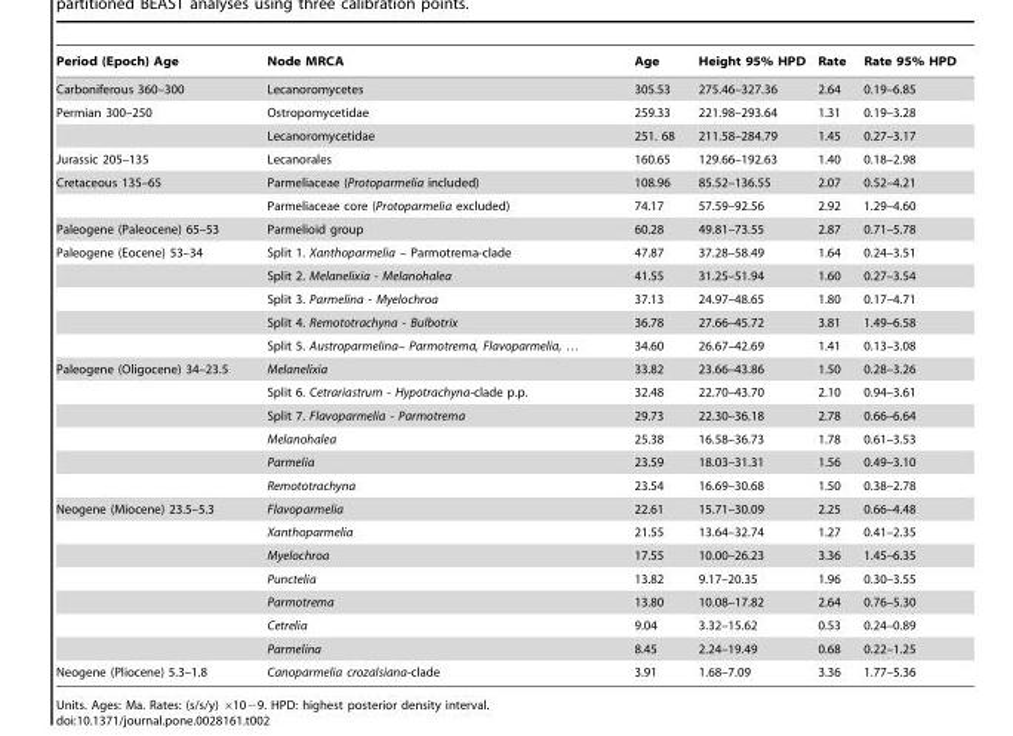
<table><thead><tr><td>Period (Epoch) Age</td><td>Node MRCA</td><td>Age</td><td>Height 95% HPD</td><td>Rate</td><td>Rate 95% HPD</td></tr></thead><tbody><tr><td>Carboniferous 360–300</td><td>Lecanoromycetes</td><td>305.53</td><td>275.46–327.36</td><td>2.64</td><td>0.19–6.85</td></tr><tr><td rowspan="2">Permian 300–250</td><td>Ostropomycetidae</td><td>259.33</td><td>221.98–293.64</td><td>1.31</td><td>0.19–3.28</td></tr><tr><td>Lecanoromycetidae</td><td>251. 68</td><td>211.58–284.79</td><td>1.45</td><td>0.27–3.17</td></tr><tr><td>Jurassic 205–135</td><td>Lecanorales</td><td>160.65</td><td>129.66–192.63</td><td>1.40</td><td>0.18–2.98</td></tr><tr><td rowspan="2">Cretaceous 135–65</td><td>Parmeliaceae (Protoparmelia included)</td><td>108.96</td><td>85.52–136.55</td><td>2.07</td><td>0.52–4.21</td></tr><tr><td>Parmeliaceae core (Protoparmelia excluded)</td><td>74.17</td><td>57.59–92.56</td><td>2.92</td><td>1.29–4.60</td></tr><tr><td>Paleogene (Paleocene) 65–53</td><td>Parmelioid group</td><td>60.28</td><td>49.81–73.55</td><td>2.87</td><td>0.71–5.78</td></tr><tr><td rowspan="5">Paleogene (Eocene) 53–34</td><td>Split 1. Xanthoparmelia – Parmotrema-clade</td><td>47.87</td><td>37.28–58.49</td><td>1.64</td><td>0.24–3.51</td></tr><tr><td>Split 2. Melanelixia - Melanohalea</td><td>41.55</td><td>31.25–51.94</td><td>1.60</td><td>0.27–3.54</td></tr><tr><td>Split 3. Parmelina - Myelochroa</td><td>37.13</td><td>24.97–48.65</td><td>1.80</td><td>0.17–4.71</td></tr><tr><td>Split 4. Remototrachyna - Bulbotrix</td><td>36.78</td><td>27.66–45.72</td><td>3.81</td><td>1.49–6.58</td></tr><tr><td>Split 5. Austroparmelina– Parmotrema, Flavoparmelia, …</td><td>34.60</td><td>26.67–42.69</td><td>1.41</td><td>0.13–3.08</td></tr><tr><td rowspan="6">Paleogene (Oligocene) 34–23.5</td><td>Melanelixia</td><td>33.82</td><td>23.66–43.86</td><td>1.50</td><td>0.28–3.26</td></tr><tr><td>Split 6. Cetrariastrum - Hypotrachyna-clade p.p.</td><td>32.48</td><td>22.70–43.70</td><td>2.10</td><td>0.94–3.61</td></tr><tr><td>Split 7. Flavoparmelia - Parmotrema</td><td>29.73</td><td>22.30–36.18</td><td>2.78</td><td>0.66–6.64</td></tr><tr><td>Melanohalea</td><td>25.38</td><td>16.58–36.73</td><td>1.78</td><td>0.61–3.53</td></tr><tr><td>Parmelia</td><td>23.59</td><td>18.03–31.31</td><td>1.56</td><td>0.49–3.10</td></tr><tr><td>Remototrachyna</td><td>23.54</td><td>16.69–30.68</td><td>1.50</td><td>0.38–2.78</td></tr><tr><td rowspan="7">Neogene (Miocene) 23.5–5.3</td><td>Flavoparmelia</td><td>22.61</td><td>15.71–30.09</td><td>2.25</td><td>0.66–4.48</td></tr><tr><td>Xanthoparmelia</td><td>21.55</td><td>13.64–32.74</td><td>1.27</td><td>0.41–2.35</td></tr><tr><td>Myelochroa</td><td>17.55</td><td>10.00–26.23</td><td>3.36</td><td>1.45–6.35</td></tr><tr><td>Punctelia</td><td>13.82</td><td>9.17–20.35</td><td>1.96</td><td>0.30–3.55</td></tr><tr><td>Parmotrema</td><td>13.80</td><td>10.08–17.82</td><td>2.64</td><td>0.76–5.30</td></tr><tr><td>Cetrelia</td><td>9.04</td><td>3.32–15.62</td><td>0.53</td><td>0.24–0.89</td></tr><tr><td>Parmelina</td><td>8.45</td><td>2.24–19.49</td><td>0.68</td><td>0.22–1.25</td></tr><tr><td>Neogene (Pliocene) 5.3–1.8</td><td>Canoparmelia crozalsiana-clade</td><td>3.91</td><td>1.68–7.09</td><td>3.36</td><td>1.77–5.36</td></tr></tbody></table>